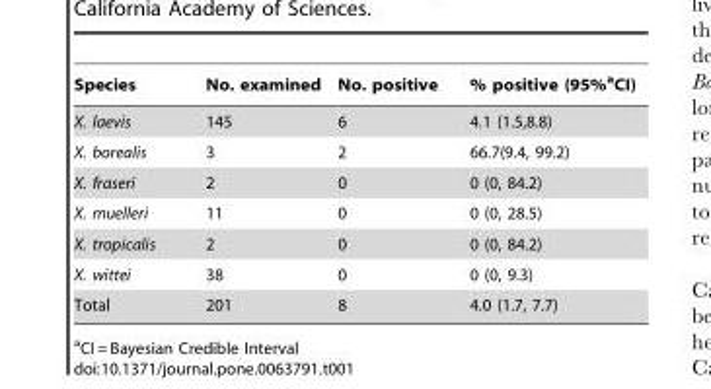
<table><thead><tr><td>Species</td><td>No. examined</td><td>No. positive</td><td>% positive (95%<sup>a</sup>CI)</td></tr></thead><tbody><tr><td>X. laevis</td><td>145</td><td>6</td><td>4.1 (1.5,8.8)</td></tr><tr><td>X. borealis</td><td>3</td><td>2</td><td>66.7(9.4, 99.2)</td></tr><tr><td>X. fraseri</td><td>2</td><td>0</td><td>0 (0, 84.2)</td></tr><tr><td>X. muelleri</td><td>11</td><td>0</td><td>0 (0, 28.5)</td></tr><tr><td>X. tropicalis</td><td>2</td><td>0</td><td>0 (0, 84.2)</td></tr><tr><td>X. wittei</td><td>38</td><td>0</td><td>0 (0, 9.3)</td></tr><tr><td>Total</td><td>201</td><td>8</td><td>4.0 (1.7, 7.7)</td></tr></tbody></table>